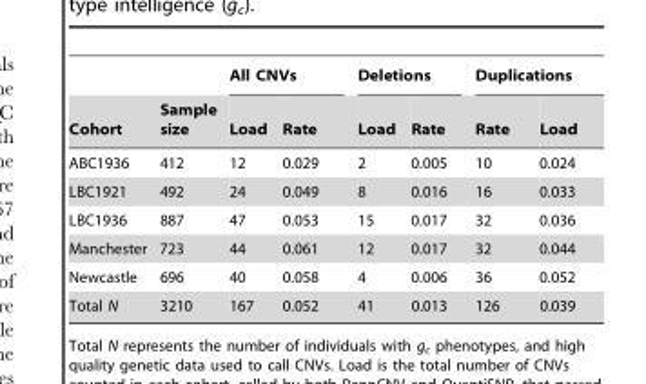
<table><thead><tr><td rowspan="2">Cohort</td><td rowspan="2">Sample size</td><td colspan="2">All CNVs</td><td colspan="2">Deletions</td><td colspan="2">Duplications</td></tr><tr><td>Load</td><td>Rate</td><td>Load</td><td>Rate</td><td>Rate</td><td>Load</td></tr></thead><tbody><tr><td>ABC1936</td><td>412</td><td>12</td><td>0.029</td><td>2</td><td>0.005</td><td>10</td><td>0.024</td></tr><tr><td>LBC1921</td><td>492</td><td>24</td><td>0.049</td><td>8</td><td>0.016</td><td>16</td><td>0.033</td></tr><tr><td>LBC1936</td><td>887</td><td>47</td><td>0.053</td><td>15</td><td>0.017</td><td>32</td><td>0.036</td></tr><tr><td>Manchester</td><td>723</td><td>44</td><td>0.061</td><td>12</td><td>0.017</td><td>32</td><td>0.044</td></tr><tr><td>Newcastle</td><td>696</td><td>40</td><td>0.058</td><td>4</td><td>0.006</td><td>36</td><td>0.052</td></tr><tr><td>Total N</td><td>3210</td><td>167</td><td>0.052</td><td>41</td><td>0.013</td><td>126</td><td>0.039</td></tr></tbody></table>